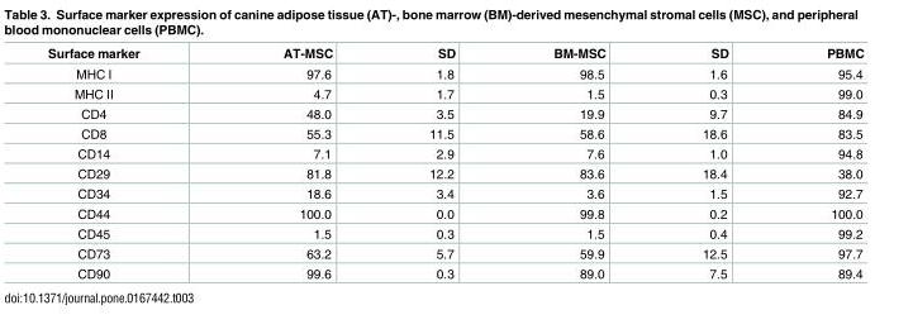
<table><thead><tr><td>Surface marker</td><td>AT-MSC</td><td>SD</td><td>BM-MSC</td><td>SD</td><td>PBMC</td></tr></thead><tbody><tr><td>MHC I</td><td>97.6</td><td>1.8</td><td>98.5</td><td>1.6</td><td>95.4</td></tr><tr><td>MHC II</td><td>4.7</td><td>1.7</td><td>1.5</td><td>0.3</td><td>99.0</td></tr><tr><td>CD4</td><td>48.0</td><td>3.5</td><td>19.9</td><td>9.7</td><td>84.9</td></tr><tr><td>CD8</td><td>55.3</td><td>11.5</td><td>58.6</td><td>18.6</td><td>83.5</td></tr><tr><td>CD14</td><td>7.1</td><td>2.9</td><td>7.6</td><td>1.0</td><td>94.8</td></tr><tr><td>CD29</td><td>81.8</td><td>12.2</td><td>83.6</td><td>18.4</td><td>38.0</td></tr><tr><td>CD34</td><td>18.6</td><td>3.4</td><td>3.6</td><td>1.5</td><td>92.7</td></tr><tr><td>CD44</td><td>100.0</td><td>0.0</td><td>99.8</td><td>0.2</td><td>100.0</td></tr><tr><td>CD45</td><td>1.5</td><td>0.3</td><td>1.5</td><td>0.4</td><td>99.2</td></tr><tr><td>CD73</td><td>63.2</td><td>5.7</td><td>59.9</td><td>12.5</td><td>97.7</td></tr><tr><td>CD90</td><td>99.6</td><td>0.3</td><td>89.0</td><td>7.5</td><td>89.4</td></tr></tbody></table>